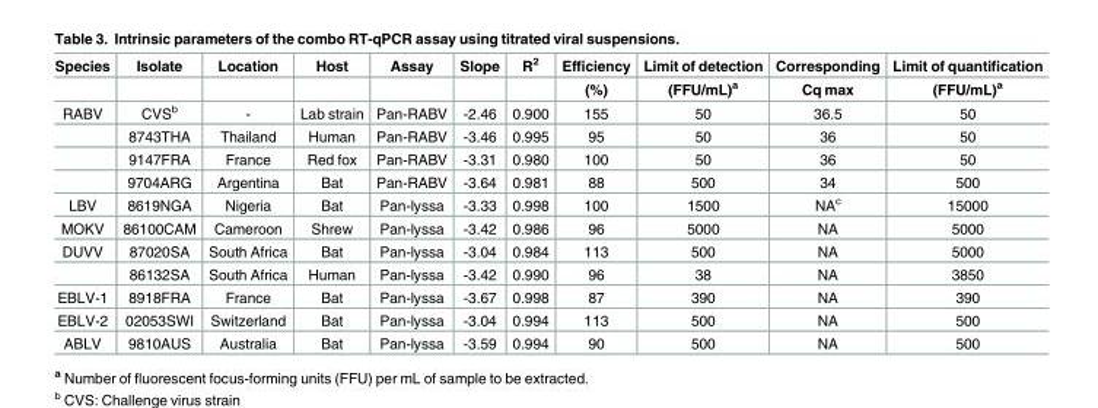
<table><thead><tr><td rowspan="2">Species</td><td rowspan="2">Isolate</td><td rowspan="2">Location</td><td rowspan="2">Host</td><td rowspan="2">Assay</td><td rowspan="2">Slope</td><td rowspan="2">R<sup>2</sup></td><td rowspan="2">Efficiency (%)</td><td rowspan="2">Limit of detection (FFU/mL)<sup>a</sup></td><td rowspan="2">Corresponding Cq max</td><td rowspan="2">Limit of quantification (FFU/mL)<sup>a</sup></td></tr><tr></tr></thead><tbody><tr><td rowspan="4">RABV</td><td>CVS<sup>b</sup></td><td>-</td><td>Lab strain</td><td>Pan-RABV</td><td>-2.46</td><td>0.900</td><td>155</td><td>50</td><td>36.5</td><td>50</td></tr><tr><td>8743THA</td><td>Thailand</td><td>Human</td><td>Pan-RABV</td><td>-3.46</td><td>0.995</td><td>95</td><td>50</td><td>36</td><td>50</td></tr><tr><td>9147FRA</td><td>France</td><td>Red fox</td><td>Pan-RABV</td><td>-3.31</td><td>0.980</td><td>100</td><td>50</td><td>36</td><td>50</td></tr><tr><td>9704ARG</td><td>Argentina</td><td>Bat</td><td>Pan-RABV</td><td>-3.64</td><td>0.981</td><td>88</td><td>500</td><td>34</td><td>500</td></tr><tr><td>LBV</td><td>8619NGA</td><td>Nigeria</td><td>Bat</td><td>Pan-lyssa</td><td>-3.33</td><td>0.998</td><td>100</td><td>1500</td><td>NA<sup>c</sup></td><td>15000</td></tr><tr><td>MOKV</td><td>86100CAM</td><td>Cameroon</td><td>Shrew</td><td>Pan-lyssa</td><td>-3.42</td><td>0.986</td><td>96</td><td>5000</td><td>NA</td><td>5000</td></tr><tr><td rowspan="2">DUVV</td><td>87020SA</td><td>South Africa</td><td>Bat</td><td>Pan-lyssa</td><td>-3.04</td><td>0.984</td><td>113</td><td>500</td><td>NA</td><td>5000</td></tr><tr><td>86132SA</td><td>South Africa</td><td>Human</td><td>Pan-lyssa</td><td>-3.42</td><td>0.990</td><td>96</td><td>38</td><td>NA</td><td>3850</td></tr><tr><td>EBLV-1</td><td>8918FRA</td><td>France</td><td>Bat</td><td>Pan-lyssa</td><td>-3.67</td><td>0.998</td><td>87</td><td>390</td><td>NA</td><td>390</td></tr><tr><td>EBLV-2</td><td>02053SWI</td><td>Switzerland</td><td>Bat</td><td>Pan-lyssa</td><td>-3.04</td><td>0.994</td><td>113</td><td>500</td><td>NA</td><td>500</td></tr><tr><td>ABLV</td><td>9810AUS</td><td>Australia</td><td>Bat</td><td>Pan-lyssa</td><td>-3.59</td><td>0.994</td><td>90</td><td>500</td><td>NA</td><td>500</td></tr></tbody></table>